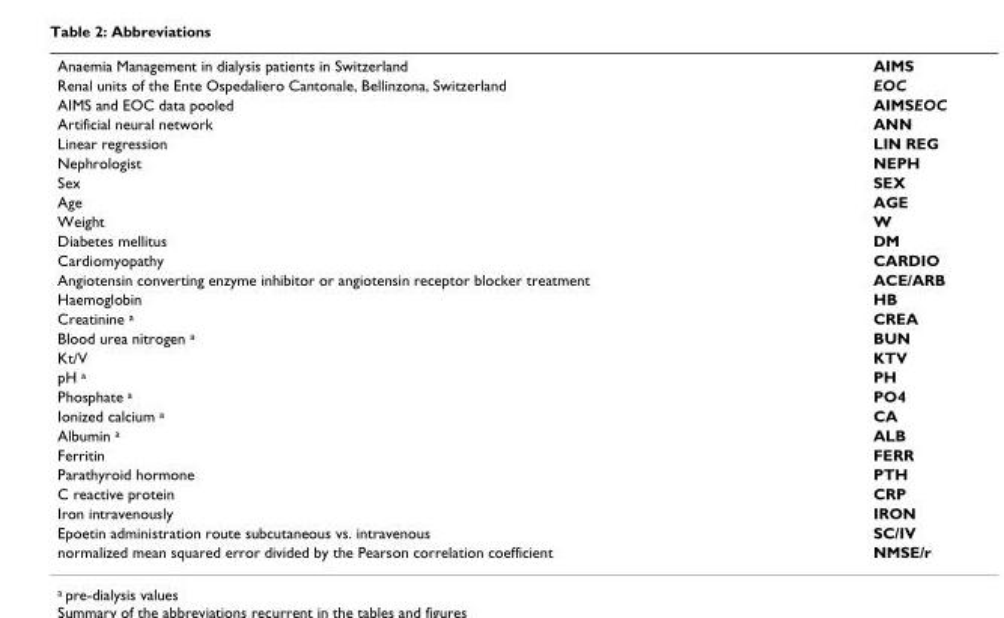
<table><tbody><tr><td>Anaemia Management in dialysis patients in Switzerland</td><td>AIMS</td></tr><tr><td>Renal units of the Ente Ospedaliero Cantonale, Bellinzona, Switzerland</td><td>EOC</td></tr><tr><td>AIMS and EOC data pooled</td><td>AIMSEOC</td></tr><tr><td>Artificial neural network</td><td>ANN</td></tr><tr><td>Linear regression</td><td>LIN REG</td></tr><tr><td>Nephrologist</td><td>NEPH</td></tr><tr><td>Sex</td><td>SEX</td></tr><tr><td>Age</td><td>AGE</td></tr><tr><td>Weight</td><td>W</td></tr><tr><td>Diabetes mellitus</td><td>DM</td></tr><tr><td>Cardiomyopathy</td><td>CARDIO</td></tr><tr><td>Angiotensin converting enzyme inhibitor or angiotensin receptor blocker treatment</td><td>ACE/ARB</td></tr><tr><td>Haemoglobin</td><td>HB</td></tr><tr><td>Creatinine <sup>a</sup></td><td>CREA</td></tr><tr><td>Blood urea nitrogen <sup>a</sup></td><td>BUN</td></tr><tr><td>Kt/V</td><td>KTV</td></tr><tr><td>pH <sup>a</sup></td><td>PH</td></tr><tr><td>Phosphate <sup>a</sup></td><td>PO4</td></tr><tr><td>Ionized calcium <sup>a</sup></td><td>CA</td></tr><tr><td>Albumin <sup>a</sup></td><td>ALB</td></tr><tr><td>Ferritin</td><td>FERR</td></tr><tr><td>Parathyroid hormone</td><td>PTH</td></tr><tr><td>C reactive protein</td><td>CRP</td></tr><tr><td>Iron intravenously</td><td>IRON</td></tr><tr><td>Epoetin administration route subcutaneous vs. intravenous</td><td>SC/IV</td></tr><tr><td>normalized mean squared error divided by the Pearson correlation coefficient</td><td>NMSE/r</td></tr></tbody></table>